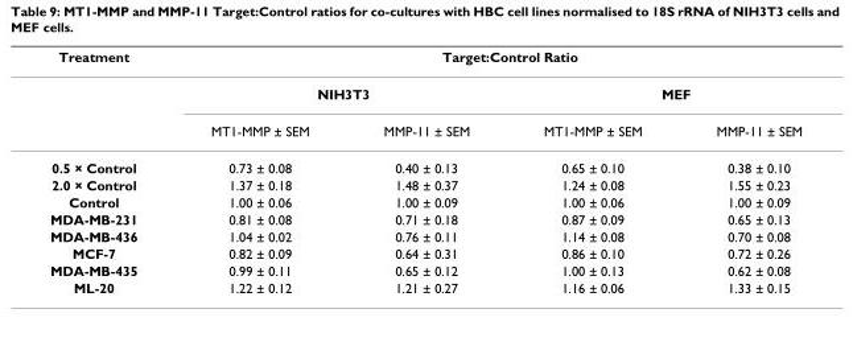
<table><thead><tr><td rowspan="3">Treatment</td><td colspan="4">Target:Control Ratio</td></tr><tr><td colspan="2">NIH3T3</td><td colspan="2">MEF</td></tr><tr><td>MT1-MMP ± SEM</td><td>MMP-11 ± SEM</td><td>MT1-MMP ± SEM</td><td>MMP-11 ± SEM</td></tr></thead><tbody><tr><td>0.5 × Control</td><td>0.73 ± 0.08</td><td>0.40 ± 0.13</td><td>0.65 ± 0.10</td><td>0.38 ± 0.10</td></tr><tr><td>2.0 × Control</td><td>1.37 ± 0.18</td><td>1.48 ± 0.37</td><td>1.24 ± 0.08</td><td>1.55 ± 0.23</td></tr><tr><td>Control</td><td>1.00 ± 0.06</td><td>1.00 ± 0.09</td><td>1.00 ± 0.06</td><td>1.00 ± 0.09</td></tr><tr><td>MDA-MB-231</td><td>0.81 ± 0.08</td><td>0.71 ± 0.18</td><td>0.87 ± 0.09</td><td>0.65 ± 0.13</td></tr><tr><td>MDA-MB-436</td><td>1.04 ± 0.02</td><td>0.76 ± 0.11</td><td>1.14 ± 0.08</td><td>0.70 ± 0.08</td></tr><tr><td>MCF-7</td><td>0.82 ± 0.09</td><td>0.64 ± 0.31</td><td>0.86 ± 0.10</td><td>0.72 ± 0.26</td></tr><tr><td>MDA-MB-435</td><td>0.99 ± 0.11</td><td>0.65 ± 0.12</td><td>1.00 ± 0.13</td><td>0.62 ± 0.08</td></tr><tr><td>ML-20</td><td>1.22 ± 0.12</td><td>1.21 ± 0.27</td><td>1.16 ± 0.06</td><td>1.33 ± 0.15</td></tr></tbody></table>